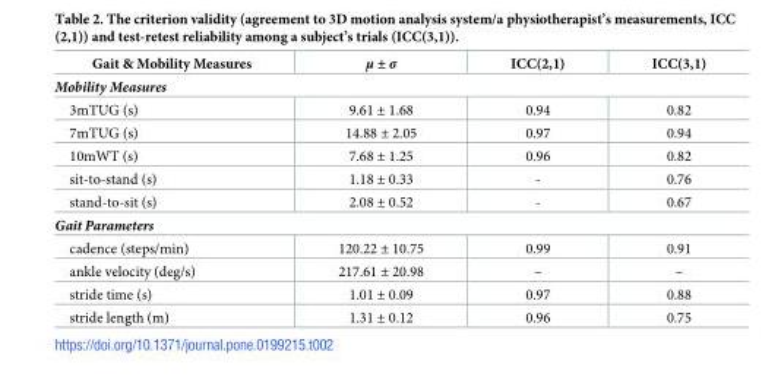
<table><thead><tr><td>Gait &amp; Mobility Measures</td><td>μ ± σ</td><td>ICC(2,1)</td><td>ICC(3,1)</td></tr></thead><tbody><tr><td colspan="4">Mobility Measures</td></tr><tr><td>3mTUG (s)</td><td>9.61 ± 1.68</td><td>0.94</td><td>0.82</td></tr><tr><td>7mTUG (s)</td><td>14.88 ± 2.05</td><td>0.97</td><td>0.94</td></tr><tr><td>10mWT (s)</td><td>7.68 ± 1.25</td><td>0.96</td><td>0.82</td></tr><tr><td>sit-to-stand (s)</td><td>1.18 ± 0.33</td><td>-</td><td>0.76</td></tr><tr><td>stand-to-sit (s)</td><td>2.08 ± 0.52</td><td>-</td><td>0.67</td></tr><tr><td colspan="4">Gait Parameters</td></tr><tr><td>cadence (steps/min)</td><td>120.22 ± 10.75</td><td>0.99</td><td>0.91</td></tr><tr><td>ankle velocity (deg/s)</td><td>217.61 ± 20.98</td><td>–</td><td>–</td></tr><tr><td>stride time (s)</td><td>1.01 ± 0.09</td><td>0.97</td><td>0.88</td></tr><tr><td>stride length (m)</td><td>1.31 ± 0.12</td><td>0.96</td><td>0.75</td></tr></tbody></table>